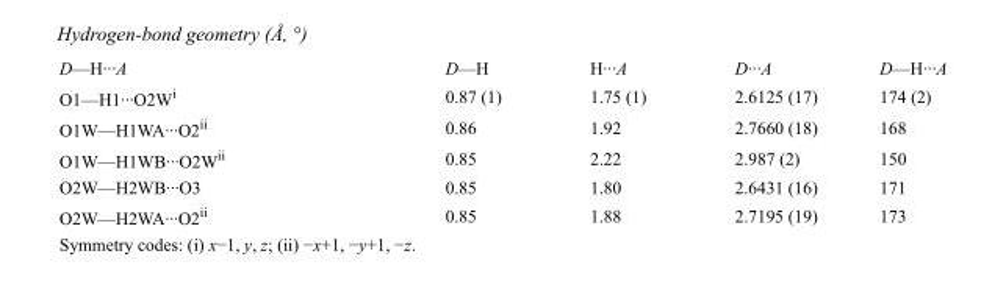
<table><tbody><tr><td>D—H···A</td><td>D—H</td><td>H···A</td><td>D···A</td><td>D—H···A</td></tr><tr><td>O1—H1···O2W<sup>i</sup></td><td>0.87 (1)</td><td>1.75 (1)</td><td>2.6125 (17)</td><td>174 (2)</td></tr><tr><td>O1W—H1WA···O2<sup>ii</sup></td><td>0.86</td><td>1.92</td><td>2.7660 (18)</td><td>168</td></tr><tr><td>O1W—H1WB···O2W<sup>ii</sup></td><td>0.85</td><td>2.22</td><td>2.987 (2)</td><td>150</td></tr><tr><td>O2W—H2WB···O3</td><td>0.85</td><td>1.80</td><td>2.6431 (16)</td><td>171</td></tr><tr><td>O2W—H2WA···O2<sup>ii</sup></td><td>0.85</td><td>1.88</td><td>2.7195 (19)</td><td>173</td></tr></tbody></table>